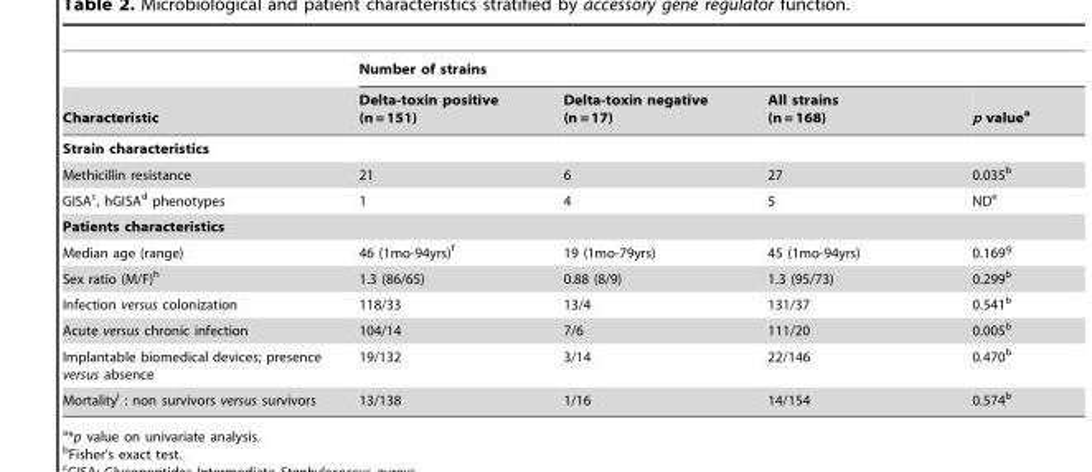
<table><thead><tr><td rowspan="2">Characteristic</td><td colspan="4">Number of strains</td></tr><tr><td>Delta-toxin positive (n = 151)</td><td>Delta-toxin negative (n = 17)</td><td>All strains (n = 168)</td><td>p value<sup>a</sup></td></tr></thead><tbody><tr><td colspan="5">Strain characteristics</td></tr><tr><td>Methicillin resistance</td><td>21</td><td>6</td><td>27</td><td>0.035<sup>b</sup></td></tr><tr><td>GISA<sup>c</sup>, hGISA<sup>d</sup> phenotypes</td><td>1</td><td>4</td><td>5</td><td>ND<sup>e</sup></td></tr><tr><td colspan="5">Patients characteristics</td></tr><tr><td>Median age (range)</td><td>46 (1mo-94yrs)<sup>f</sup></td><td>19 (1mo-79yrs)</td><td>45 (1mo-94yrs)</td><td>0.169<sup>g</sup></td></tr><tr><td>Sex ratio (M/F)<sup>h</sup></td><td>1.3 (86/65)</td><td>0.88 (8/9)</td><td>1.3 (95/73)</td><td>0.299<sup>b</sup></td></tr><tr><td>Infection versus colonization</td><td>118/33</td><td>13/4</td><td>131/37</td><td>0.541<sup>b</sup></td></tr><tr><td>Acute versus chronic infection</td><td>104/14</td><td>7/6</td><td>111/20</td><td>0.005<sup>b</sup></td></tr><tr><td>Implantable biomedical devices; presence versus absence</td><td>19/132</td><td>3/14</td><td>22/146</td><td>0.470<sup>b</sup></td></tr><tr><td>Mortality<sup>i</sup> : non survivors versus survivors</td><td>13/138</td><td>1/16</td><td>14/154</td><td>0.574<sup>b</sup></td></tr></tbody></table>